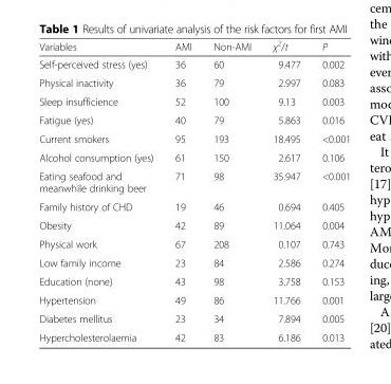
<table><thead><tr><td>Variables</td><td>AMI</td><td>Non-AMI</td><td>χ<sup>2</sup>/t</td><td>P</td></tr></thead><tbody><tr><td>Self-perceived stress (yes)</td><td>36</td><td>60</td><td>9.477</td><td>0.002</td></tr><tr><td>Physical inactivity</td><td>36</td><td>79</td><td>2.997</td><td>0.083</td></tr><tr><td>Sleep insufficience</td><td>52</td><td>100</td><td>9.13</td><td>0.003</td></tr><tr><td>Fatigue (yes)</td><td>40</td><td>79</td><td>5.863</td><td>0.016</td></tr><tr><td>Current smokers</td><td>95</td><td>193</td><td>18.495</td><td>&lt;0.001</td></tr><tr><td>Alcohol consumption (yes)</td><td>61</td><td>150</td><td>2.617</td><td>0.106</td></tr><tr><td>Eating seafood and meanwhile drinking beer</td><td>71</td><td>98</td><td>35.947</td><td>&lt;0.001</td></tr><tr><td>Family history of CHD</td><td>19</td><td>46</td><td>0.694</td><td>0.405</td></tr><tr><td>Obesity</td><td>42</td><td>89</td><td>11.064</td><td>0.004</td></tr><tr><td>Physical work</td><td>67</td><td>208</td><td>0.107</td><td>0.743</td></tr><tr><td>Low family income</td><td>23</td><td>84</td><td>2.586</td><td>0.274</td></tr><tr><td>Education (none)</td><td>43</td><td>98</td><td>3.758</td><td>0.153</td></tr><tr><td>Hypertension</td><td>49</td><td>86</td><td>11.766</td><td>0.001</td></tr><tr><td>Diabetes mellitus</td><td>23</td><td>34</td><td>7.894</td><td>0.005</td></tr><tr><td>Hypercholesterolaemia</td><td>42</td><td>83</td><td>6.186</td><td>0.013</td></tr></tbody></table>